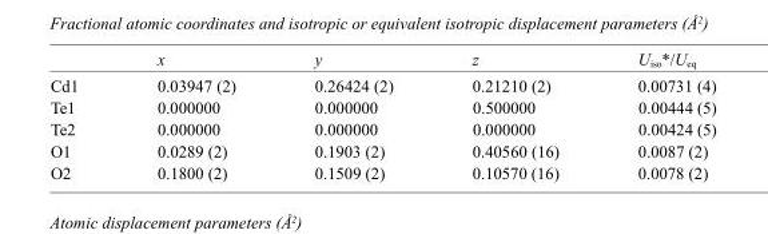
<table><thead><tr><td></td><td>x</td><td>y</td><td>z</td><td>U<sub>iso</sub>*/U<sub>eq</sub></td></tr></thead><tbody><tr><td>Cd1</td><td>0.03947 (2)</td><td>0.26424 (2)</td><td>0.21210 (2)</td><td>0.00731 (4)</td></tr><tr><td>Te1</td><td>0.000000</td><td>0.000000</td><td>0.500000</td><td>0.00444 (5)</td></tr><tr><td>Te2</td><td>0.000000</td><td>0.000000</td><td>0.000000</td><td>0.00424 (5)</td></tr><tr><td>O1</td><td>0.0289 (2)</td><td>0.1903 (2)</td><td>0.40560 (16)</td><td>0.0087 (2)</td></tr><tr><td>O2</td><td>0.1800 (2)</td><td>0.1509 (2)</td><td>0.10570 (16)</td><td>0.0078 (2)</td></tr></tbody></table>